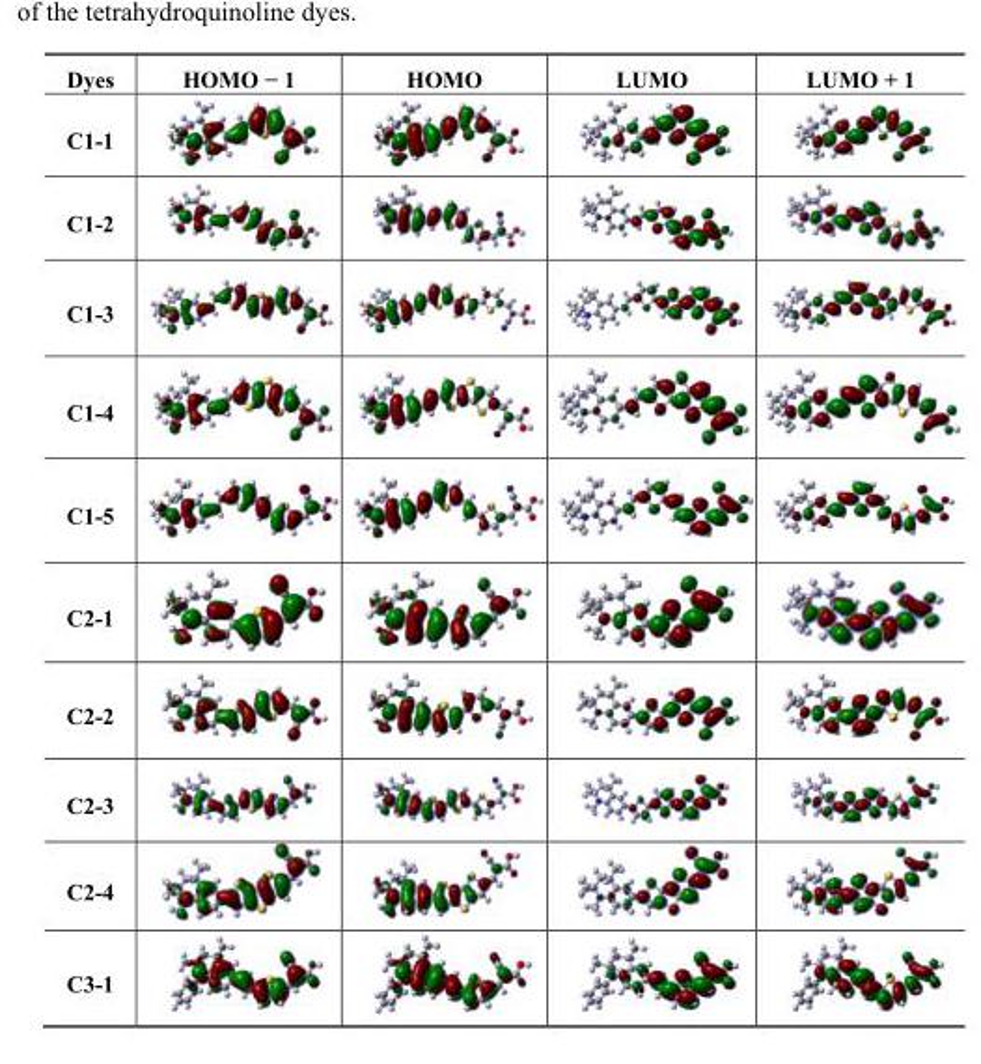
<table><thead><tr><td>Dyes</td><td>HOMO − 1</td><td>HOMO</td><td>LUMO</td><td>LUMO + 1</td></tr></thead><tbody><tr><td colspan="5">C1-1</td></tr><tr><td colspan="5">C1-2</td></tr><tr><td colspan="5">C1-3</td></tr><tr><td colspan="5">C1-4</td></tr><tr><td colspan="5">C1-5</td></tr><tr><td colspan="5">C2-1</td></tr><tr><td colspan="5">C2-2</td></tr><tr><td colspan="5">C2-3</td></tr><tr><td colspan="5">C2-4</td></tr><tr><td>C3-1</td><td></td><td></td><td></td><td></td></tr></tbody></table>